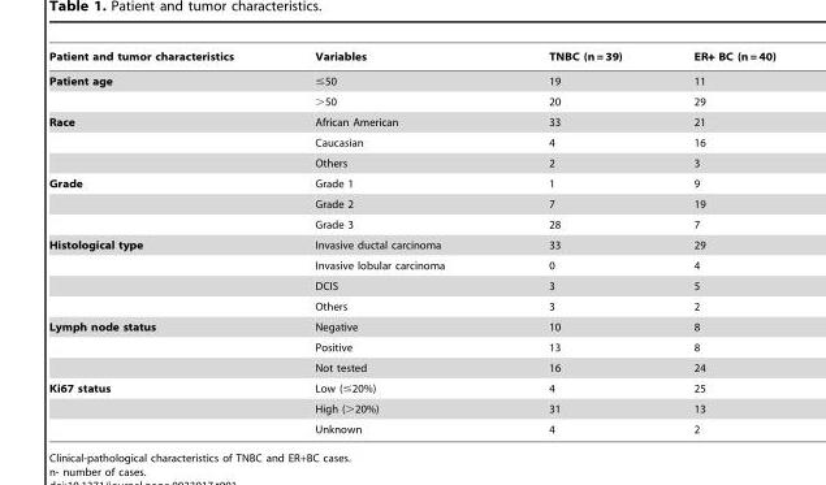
<table><thead><tr><td>Patient and tumor characteristics</td><td>Variables</td><td>TNBC (n = 39)</td><td>ER+ BC (n = 40)</td></tr></thead><tbody><tr><td rowspan="2">Patient age</td><td>≤50</td><td>19</td><td>11</td></tr><tr><td>&gt;50</td><td>20</td><td>29</td></tr><tr><td rowspan="3">Race</td><td>African American</td><td>33</td><td>21</td></tr><tr><td>Caucasian</td><td>4</td><td>16</td></tr><tr><td>Others</td><td>2</td><td>3</td></tr><tr><td rowspan="3">Grade</td><td>Grade 1</td><td>1</td><td>9</td></tr><tr><td>Grade 2</td><td>7</td><td>19</td></tr><tr><td>Grade 3</td><td>28</td><td>7</td></tr><tr><td rowspan="4">Histological type</td><td>Invasive ductal carcinoma</td><td>33</td><td>29</td></tr><tr><td>Invasive lobular carcinoma</td><td>0</td><td>4</td></tr><tr><td>DCIS</td><td>3</td><td>5</td></tr><tr><td>Others</td><td>3</td><td>2</td></tr><tr><td rowspan="3">Lymph node status</td><td>Negative</td><td>10</td><td>8</td></tr><tr><td>Positive</td><td>13</td><td>8</td></tr><tr><td>Not tested</td><td>16</td><td>24</td></tr><tr><td rowspan="3">Ki67 status</td><td>Low (≤20%)</td><td>4</td><td>25</td></tr><tr><td>High (&gt;20%)</td><td>31</td><td>13</td></tr><tr><td>Unknown</td><td>4</td><td>2</td></tr></tbody></table>